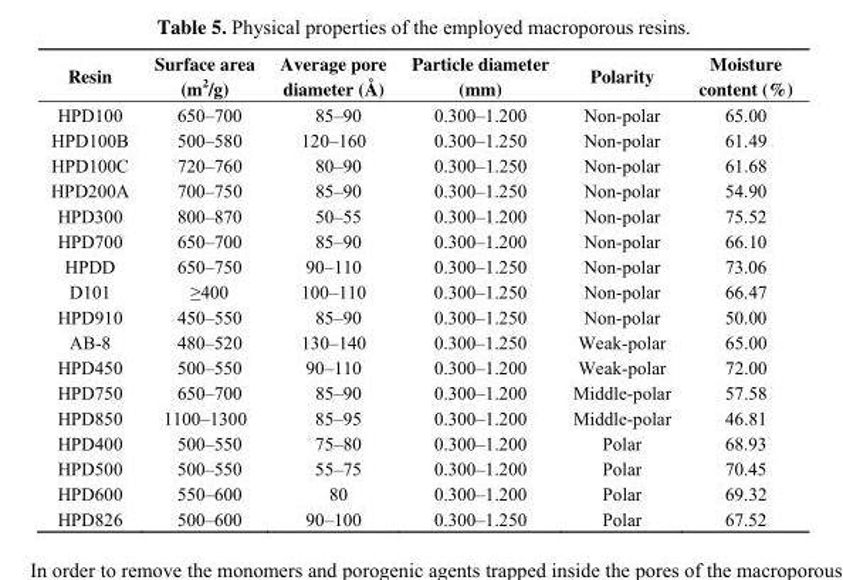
<table><thead><tr><td>Resin</td><td>Surface area (m<sup>2</sup>/g)</td><td>Average pore diameter (Å)</td><td>Particle diameter (mm)</td><td>Polarity</td><td>Moisture content (%)</td></tr></thead><tbody><tr><td>HPD100</td><td>650–700</td><td>85–90</td><td>0.300–1.200</td><td>Non-polar</td><td>65.00</td></tr><tr><td>HPD100B</td><td>500–580</td><td>120–160</td><td>0.300–1.250</td><td>Non-polar</td><td>61.49</td></tr><tr><td>HPD100C</td><td>720–760</td><td>80–90</td><td>0.300–1.250</td><td>Non-polar</td><td>61.68</td></tr><tr><td>HPD200A</td><td>700–750</td><td>85–90</td><td>0.300–1.250</td><td>Non-polar</td><td>54.90</td></tr><tr><td>HPD300</td><td>800–870</td><td>50–55</td><td>0.300–1.200</td><td>Non-polar</td><td>75.52</td></tr><tr><td>HPD700</td><td>650–700</td><td>85–90</td><td>0.300–1.200</td><td>Non-polar</td><td>66.10</td></tr><tr><td>HPDD</td><td>650–750</td><td>90–110</td><td>0.300–1.250</td><td>Non-polar</td><td>73.06</td></tr><tr><td>D101</td><td>≥400</td><td>100–110</td><td>0.300–1.250</td><td>Non-polar</td><td>66.47</td></tr><tr><td>HPD910</td><td>450–550</td><td>85–90</td><td>0.300–1.250</td><td>Non-polar</td><td>50.00</td></tr><tr><td>AB-8</td><td>480–520</td><td>130–140</td><td>0.300–1.250</td><td>Weak-polar</td><td>65.00</td></tr><tr><td>HPD450</td><td>500–550</td><td>90–110</td><td>0.300–1.200</td><td>Weak-polar</td><td>72.00</td></tr><tr><td>HPD750</td><td>650–700</td><td>85–90</td><td>0.300–1.200</td><td>Middle-polar</td><td>57.58</td></tr><tr><td>HPD850</td><td>1100–1300</td><td>85–95</td><td>0.300–1.200</td><td>Middle-polar</td><td>46.81</td></tr><tr><td>HPD400</td><td>500–550</td><td>75–80</td><td>0.300–1.200</td><td>Polar</td><td>68.93</td></tr><tr><td>HPD500</td><td>500–550</td><td>55–75</td><td>0.300–1.200</td><td>Polar</td><td>70.45</td></tr><tr><td>HPD600</td><td>550–600</td><td>80</td><td>0.300–1.200</td><td>Polar</td><td>69.32</td></tr><tr><td>HPD826</td><td>500–600</td><td>90–100</td><td>0.300–1.250</td><td>Polar</td><td>67.52</td></tr></tbody></table>